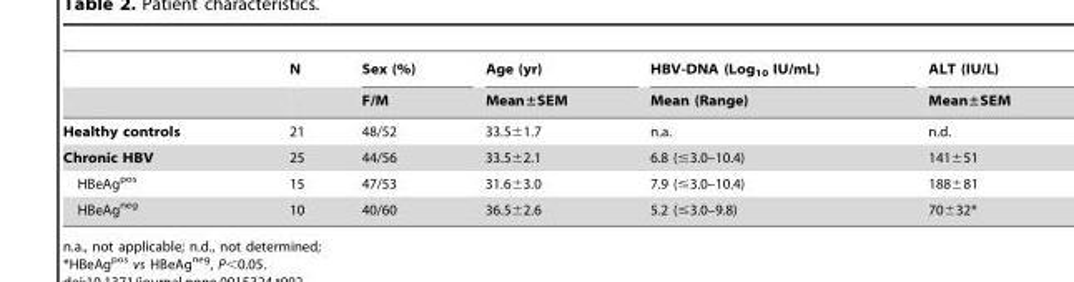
<table><thead><tr><td rowspan="2"></td><td rowspan="2">N</td><td rowspan="2">Sex (%) F/M</td><td rowspan="2">Age (yr) Mean±SEM</td><td rowspan="2">HBV-DNA (Log<sub>10</sub> IU/mL) Mean (Range)</td><td rowspan="2">ALT (IU/L) Mean±SEM</td></tr><tr></tr></thead><tbody><tr><td>Healthy controls</td><td>21</td><td>48/52</td><td>33.5±1.7</td><td>n.a.</td><td>n.d.</td></tr><tr><td>Chronic HBV</td><td>25</td><td>44/56</td><td>33.5±2.1</td><td>6.8 (≤3.0–10.4)</td><td>141±51</td></tr><tr><td>HBeAg<sup>pos</sup></td><td>15</td><td>47/53</td><td>31.6±3.0</td><td>7.9 (≤3.0–10.4)</td><td>188±81</td></tr><tr><td>HBeAg<sup>neg</sup></td><td>10</td><td>40/60</td><td>36.5±2.6</td><td>5.2 (≤3.0–9.8)</td><td>70±32*</td></tr></tbody></table>